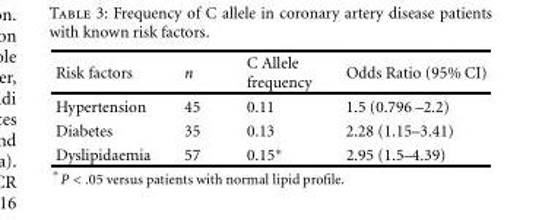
<table><thead><tr><td>Risk factors</td><td>n</td><td>C Allele frequency</td><td>Odds Ratio (95% CI)</td></tr></thead><tbody><tr><td>Hypertension</td><td>45</td><td>0.11</td><td>1.5 (0.796 –2.2)</td></tr><tr><td>Diabetes</td><td>35</td><td>0.13</td><td>2.28 (1.15–3.41)</td></tr><tr><td>Dyslipidaemia</td><td>57</td><td>0.15∗</td><td>2.95 (1.5–4.39)</td></tr></tbody></table>